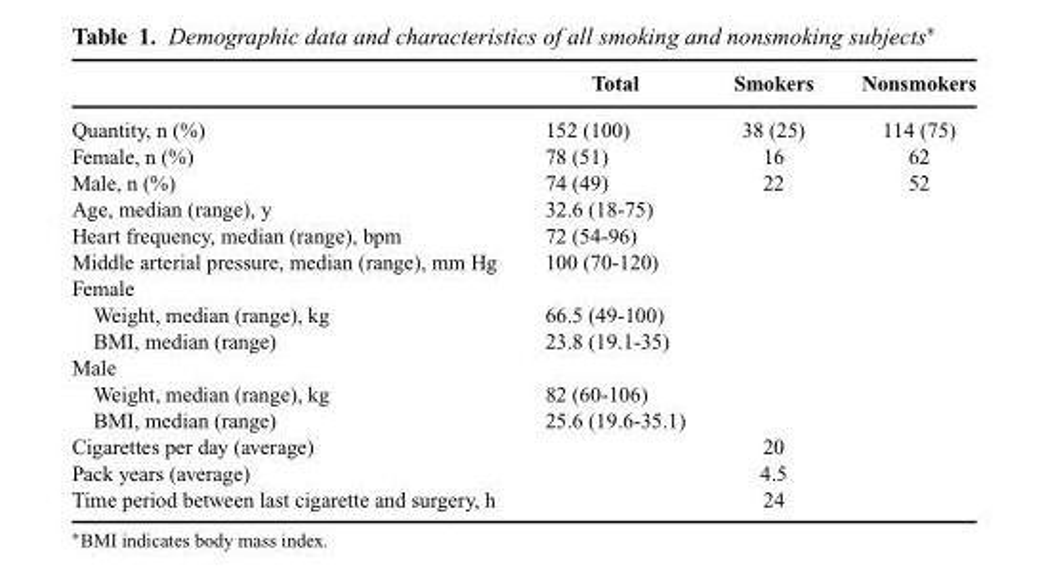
<table><thead><tr><td></td><td>Total</td><td>Smokers</td><td>Nonsmokers</td></tr></thead><tbody><tr><td>Quantity, n (%)</td><td>152 (100)</td><td>38 (25)</td><td>114 (75)</td></tr><tr><td>Female, n (%)</td><td>78 (51)</td><td>16</td><td>62</td></tr><tr><td>Male, n (%)</td><td>74 (49)</td><td>22</td><td>52</td></tr><tr><td>Age, median (range), y</td><td>32.6 (18-75)</td><td></td><td></td></tr><tr><td>Heart frequency, median (range), bpm</td><td>72 (54-96)</td><td></td><td></td></tr><tr><td>Middle arterial pressure, median (range), mm Hg</td><td>100 (70-120)</td><td></td><td></td></tr><tr><td colspan="4">Female</td></tr><tr><td>Weight, median (range), kg</td><td>66.5 (49-100)</td><td></td><td></td></tr><tr><td>BMI, median (range)</td><td>23.8 (19.1-35)</td><td></td><td></td></tr><tr><td colspan="4">Male</td></tr><tr><td>Weight, median (range), kg</td><td>82 (60-106)</td><td></td><td></td></tr><tr><td>BMI, median (range)</td><td>25.6 (19.6-35.1)</td><td></td><td></td></tr><tr><td>Cigarettes per day (average)</td><td></td><td>20</td><td></td></tr><tr><td>Pack years (average)</td><td></td><td>4.5</td><td></td></tr><tr><td>Time period between last cigarette and surgery, h</td><td></td><td>24</td><td></td></tr></tbody></table>